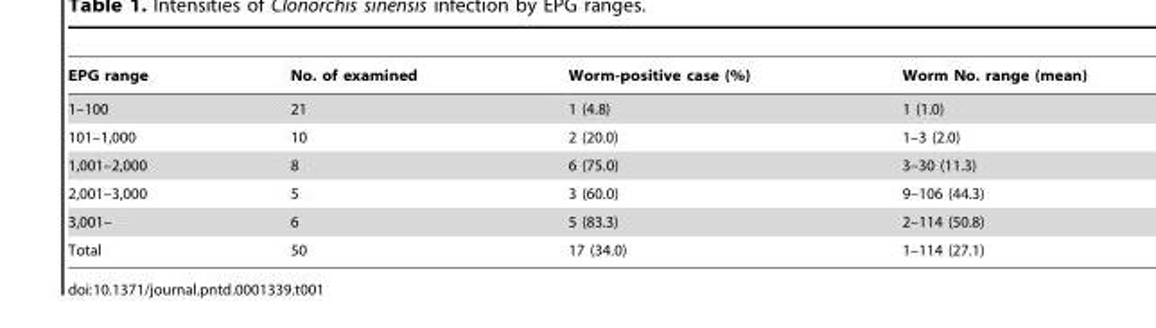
<table><thead><tr><td>EPG range</td><td>No. of examined</td><td>Worm-positive case (%)</td><td>Worm No. range (mean)</td></tr></thead><tbody><tr><td>1–100</td><td>21</td><td>1 (4.8)</td><td>1 (1.0)</td></tr><tr><td>101–1,000</td><td>10</td><td>2 (20.0)</td><td>1–3 (2.0)</td></tr><tr><td>1,001–2,000</td><td>8</td><td>6 (75.0)</td><td>3–30 (11.3)</td></tr><tr><td>2,001–3,000</td><td>5</td><td>3 (60.0)</td><td>9–106 (44.3)</td></tr><tr><td>3,001–</td><td>6</td><td>5 (83.3)</td><td>2–114 (50.8)</td></tr><tr><td>Total</td><td>50</td><td>17 (34.0)</td><td>1–114 (27.1)</td></tr></tbody></table>